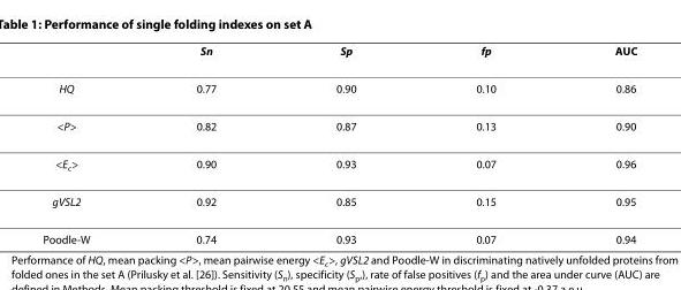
<table><thead><tr><td></td><td>S<sub>n</sub></td><td>S<sub>p</sub></td><td>f<sub>p</sub></td><td>AUC</td></tr></thead><tbody><tr><td>HQ</td><td>0.77</td><td>0.90</td><td>0.10</td><td>0.86</td></tr><tr><td>&lt;P&gt;</td><td>0.82</td><td>0.87</td><td>0.13</td><td>0.90</td></tr><tr><td>&lt;E<sub>c</sub>&gt;</td><td>0.90</td><td>0.93</td><td>0.07</td><td>0.96</td></tr><tr><td>gVSL2</td><td>0.92</td><td>0.85</td><td>0.15</td><td>0.95</td></tr><tr><td>Poodle-W</td><td>0.74</td><td>0.93</td><td>0.07</td><td>0.94</td></tr></tbody></table>